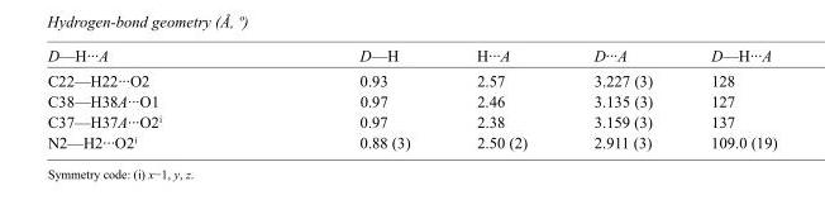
<table><tbody><tr><td>D—H···A</td><td>D—H</td><td>H···A</td><td>D···A</td><td>D—H···A</td></tr><tr><td>C22—H22···O2</td><td>0.93</td><td>2.57</td><td>3.227 (3)</td><td>128</td></tr><tr><td>C38—H38A···O1</td><td>0.97</td><td>2.46</td><td>3.135 (3)</td><td>127</td></tr><tr><td>C37—H37A···O2<sup>i</sup></td><td>0.97</td><td>2.38</td><td>3.159 (3)</td><td>137</td></tr><tr><td>N2—H2···O2<sup>i</sup></td><td>0.88 (3)</td><td>2.50 (2)</td><td>2.911 (3)</td><td>109.0 (19)</td></tr></tbody></table>